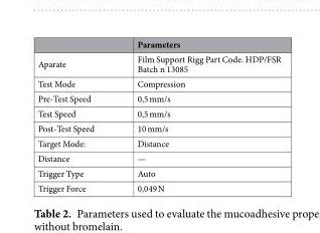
<table><thead><tr><td></td><td>Parameters</td></tr></thead><tbody><tr><td>Aparate</td><td>Film Support Rigg Part Code. HDP/FSR Batch n 13085</td></tr><tr><td>Test Mode</td><td>Compression</td></tr><tr><td>Pre-Test Speed</td><td>0,5 mm/s</td></tr><tr><td>Test Speed</td><td>0,5 mm/s</td></tr><tr><td>Post-Test Speed</td><td>10 mm/s</td></tr><tr><td>Target Mode:</td><td>Distance</td></tr><tr><td>Distance</td><td>—</td></tr><tr><td>Trigger Type</td><td>Auto</td></tr><tr><td>Trigger Force</td><td>0,049 N</td></tr></tbody></table>